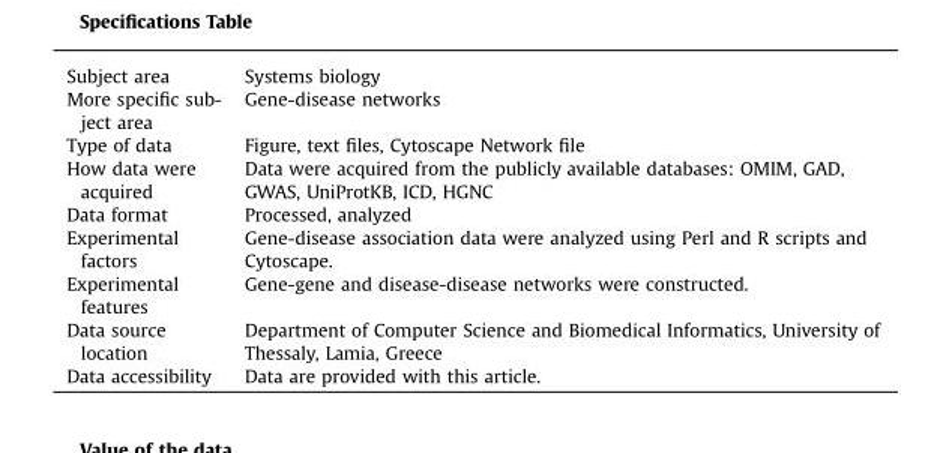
<table><tbody><tr><td>Subject area</td><td>Systems biology</td></tr><tr><td>More specific sub- ject area</td><td>Gene-disease networks</td></tr><tr><td>Type of data</td><td>Figure, text files, Cytoscape Network file</td></tr><tr><td>How data were acquired</td><td>Data were acquired from the publicly available databases: OMIM, GAD, GWAS, UniProtKB, ICD, HGNC</td></tr><tr><td>Data format</td><td>Processed, analyzed</td></tr><tr><td>Experimental factors</td><td>Gene-disease association data were analyzed using Perl and R scripts and Cytoscape.</td></tr><tr><td>Experimental features</td><td>Gene-gene and disease-disease networks were constructed.</td></tr><tr><td>Data source location</td><td>Department of Computer Science and Biomedical Informatics, University of Thessaly, Lamia, Greece</td></tr><tr><td>Data accessibility</td><td>Data are provided with this article.</td></tr></tbody></table>